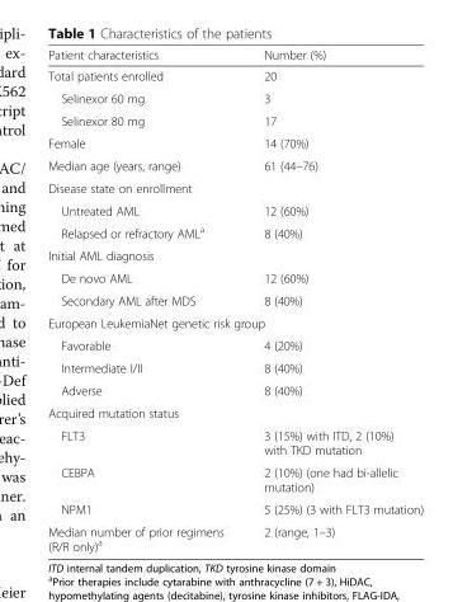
<table><thead><tr><td>Patient characteristics</td><td>Number (%)</td></tr></thead><tbody><tr><td>Total patients enrolled</td><td>20</td></tr><tr><td>Selinexor 60 mg</td><td>3</td></tr><tr><td>Selinexor 80 mg</td><td>17</td></tr><tr><td>Female</td><td>14 (70%)</td></tr><tr><td>Median age (years, range)</td><td>61 (44–76)</td></tr><tr><td colspan="2">Disease state on enrollment</td></tr><tr><td>Untreated AML</td><td>12 (60%)</td></tr><tr><td>Relapsed or refractory AML<sup>a</sup></td><td>8 (40%)</td></tr><tr><td colspan="2">Initial AML diagnosis</td></tr><tr><td>De novo AML</td><td>12 (60%)</td></tr><tr><td>Secondary AML after MDS</td><td>8 (40%)</td></tr><tr><td colspan="2">European LeukemiaNet genetic risk group</td></tr><tr><td>Favorable</td><td>4 (20%)</td></tr><tr><td>Intermediate I/II</td><td>8 (40%)</td></tr><tr><td>Adverse</td><td>8 (40%)</td></tr><tr><td colspan="2">Acquired mutation status</td></tr><tr><td>FLT3</td><td>3 (15%) with ITD, 2 (10%) with TKD mutation</td></tr><tr><td>CEBPA</td><td>2 (10%) (one had bi-allelic mutation)</td></tr><tr><td>NPM1</td><td>5 (25%) (3 with FLT3 mutation)</td></tr><tr><td>Median number of prior regimens (R/R only)<sup>a</sup></td><td>2 (range, 1–3)</td></tr></tbody></table>